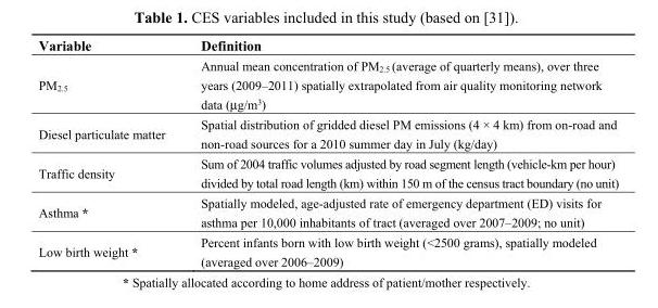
<table><thead><tr><td>Variable</td><td>Definition</td></tr></thead><tbody><tr><td>PM<sub>2.5</sub></td><td>Annual mean concentration of PM<sub>2.5</sub> (average of quarterly means), over three years (2009–2011) spatially extrapolated from air quality monitoring network data (μg/m<sup>3</sup>)</td></tr><tr><td>Diesel particulate matter</td><td>Spatial distribution of gridded diesel PM emissions (4 × 4 km) from on-road and non-road sources for a 2010 summer day in July (kg/day)</td></tr><tr><td>Traffic density</td><td>Sum of 2004 traffic volumes adjusted by road segment length (vehicle-km per hour) divided by total road length (km) within 150 m of the census tract boundary (no unit)</td></tr><tr><td>Asthma *</td><td>Spatially modeled, age-adjusted rate of emergency department (ED) visits for asthma per 10,000 inhabitants of tract (averaged over 2007–2009; no unit)</td></tr><tr><td>Low birth weight *</td><td>Percent infants born with low birth weight (&lt;2500 grams), spatially modeled (averaged over 2006–2009)</td></tr></tbody></table>